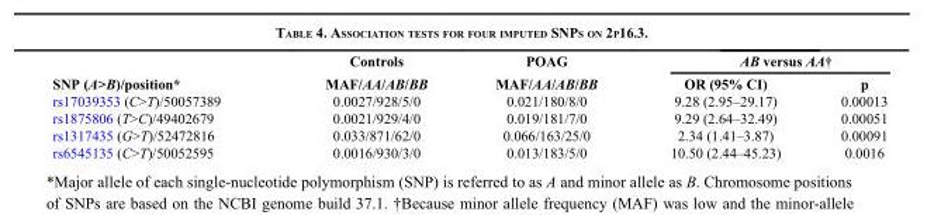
<table><thead><tr><td rowspan="2">SNP (A&gt;B)/position*</td><td rowspan="2">Controls MAF/AA/AB/BB</td><td rowspan="2">POAG MAF/AA/AB/BB</td><td colspan="2">AB versus AA†</td></tr><tr><td>OR (95% CI)</td><td>p</td></tr></thead><tbody><tr><td>rs17039353 (C&gt;T)/50057389</td><td>0.0027/928/5/0</td><td>0.021/180/8/0</td><td>9.28 (2.95–29.17)</td><td>0.00013</td></tr><tr><td>rs1875806 (T&gt;C)/49402679</td><td>0.0021/929/4/0</td><td>0.019/181/7/0</td><td>9.29 (2.64–32.49)</td><td>0.00051</td></tr><tr><td>rs1317435 (G&gt;T)/52472816</td><td>0.033/871/62/0</td><td>0.066/163/25/0</td><td>2.34 (1.41–3.87)</td><td>0.00091</td></tr><tr><td>rs6545135 (C&gt;T)/50052595</td><td>0.0016/930/3/0</td><td>0.013/183/5/0</td><td>10.50 (2.44–45.23)</td><td>0.0016</td></tr></tbody></table>